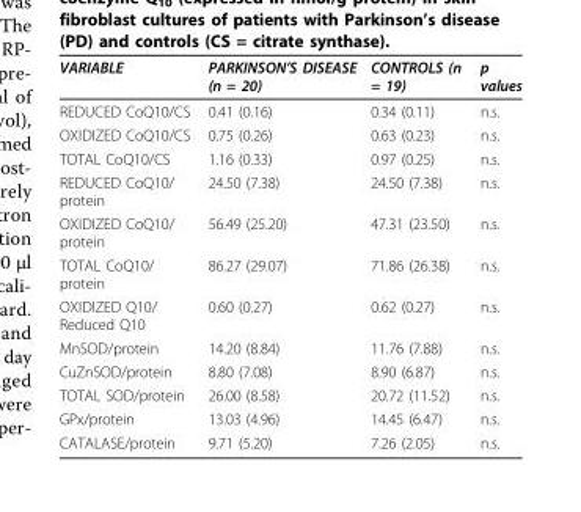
<table><thead><tr><td>VARIABLE</td><td>PARKINSON’S DISEASE (n = 20)</td><td>CONTROLS (n = 19)</td><td>p values</td></tr></thead><tbody><tr><td>REDUCED CoQ10/CS</td><td>0.41 (0.16)</td><td>0.34 (0.11)</td><td>n.s.</td></tr><tr><td>OXIDIZED CoQ10/CS</td><td>0.75 (0.26)</td><td>0.63 (0.23)</td><td>n.s.</td></tr><tr><td>TOTAL CoQ10/CS</td><td>1.16 (0.33)</td><td>0.97 (0.25)</td><td>n.s.</td></tr><tr><td>REDUCED CoQ10/ protein</td><td>24.50 (7.38)</td><td>24.50 (7.38)</td><td>n.s.</td></tr><tr><td>OXIDIZED CoQ10/ protein</td><td>56.49 (25.20)</td><td>47.31 (23.50)</td><td>n.s.</td></tr><tr><td>TOTAL CoQ10/ protein</td><td>86.27 (29.07)</td><td>71.86 (26.38)</td><td>n.s.</td></tr><tr><td>OXIDIZED Q10/ Reduced Q10</td><td>0.60 (0.27)</td><td>0.62 (0.27)</td><td>n.s.</td></tr><tr><td>MnSOD/protein</td><td>14.20 (8.84)</td><td>11.76 (7.88)</td><td>n.s.</td></tr><tr><td>CuZnSOD/protein</td><td>8.80 (7.08)</td><td>8.90 (6.87)</td><td>n.s.</td></tr><tr><td>TOTAL SOD/protein</td><td>26.00 (8.58)</td><td>20.72 (11.52)</td><td>n.s.</td></tr><tr><td>GPx/protein</td><td>13.03 (4.96)</td><td>14.45 (6.47)</td><td>n.s.</td></tr><tr><td>CATALASE/protein</td><td>9.71 (5.20)</td><td>7.26 (2.05)</td><td>n.s.</td></tr></tbody></table>